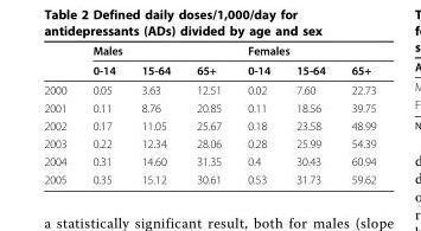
<table><thead><tr><td rowspan="2"></td><td colspan="3">Males</td><td colspan="3">Females</td></tr><tr><td>0-14</td><td>15-64</td><td>65+</td><td>0-14</td><td>15-64</td><td>65+</td></tr></thead><tbody><tr><td>2000</td><td>0.05</td><td>3.63</td><td>12.51</td><td>0.02</td><td>7.60</td><td>22.73</td></tr><tr><td>2001</td><td>0.11</td><td>8.76</td><td>20.85</td><td>0.11</td><td>18.56</td><td>39.75</td></tr><tr><td>2002</td><td>0.17</td><td>11.05</td><td>25.67</td><td>0.18</td><td>23.58</td><td>48.99</td></tr><tr><td>2003</td><td>0.22</td><td>12.34</td><td>28.06</td><td>0.28</td><td>25.99</td><td>54.39</td></tr><tr><td>2004</td><td>0.31</td><td>14.60</td><td>31.35</td><td>0.4</td><td>30.43</td><td>60.94</td></tr><tr><td>2005</td><td>0.35</td><td>15.12</td><td>30.61</td><td>0.53</td><td>31.73</td><td>59.62</td></tr></tbody></table>